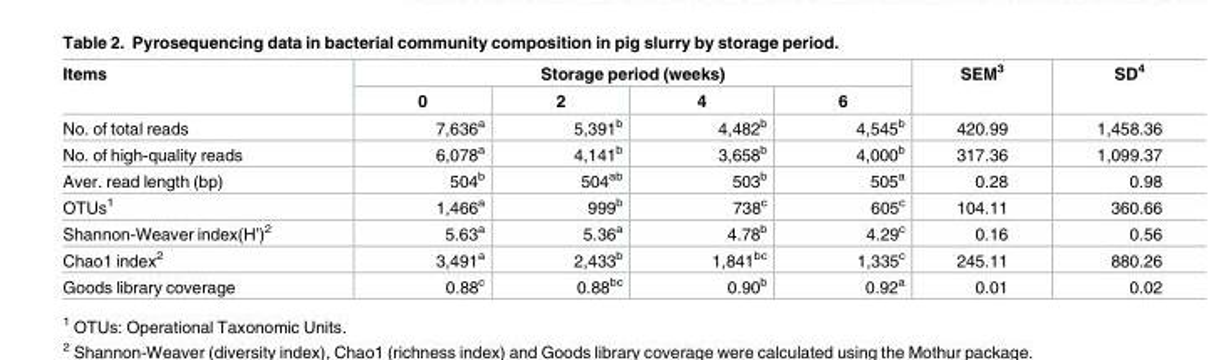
<table><thead><tr><td rowspan="2">Items</td><td colspan="4">Storage period (weeks)</td><td rowspan="2">SEM<sup>3</sup></td><td rowspan="2">SD<sup>4</sup></td></tr><tr><td>0</td><td>2</td><td>4</td><td>6</td></tr></thead><tbody><tr><td>No. of total reads</td><td>7,636<sup>a</sup></td><td>5,391<sup>b</sup></td><td>4,482<sup>b</sup></td><td>4,545<sup>b</sup></td><td>420.99</td><td>1,458.36</td></tr><tr><td>No. of high-quality reads</td><td>6,078<sup>a</sup></td><td>4,141<sup>b</sup></td><td>3,658<sup>b</sup></td><td>4,000<sup>b</sup></td><td>317.36</td><td>1,099.37</td></tr><tr><td>Aver. read length (bp)</td><td>504<sup>b</sup></td><td>504<sup>ab</sup></td><td>503<sup>b</sup></td><td>505<sup>a</sup></td><td>0.28</td><td>0.98</td></tr><tr><td>OTUs<sup>1</sup></td><td>1,466<sup>a</sup></td><td>999<sup>b</sup></td><td>738<sup>c</sup></td><td>605<sup>c</sup></td><td>104.11</td><td>360.66</td></tr><tr><td>Shannon-Weaver index(H’)<sup>2</sup></td><td>5.63<sup>a</sup></td><td>5.36<sup>a</sup></td><td>4.78<sup>b</sup></td><td>4.29<sup>c</sup></td><td>0.16</td><td>0.56</td></tr><tr><td>Chao1 index<sup>2</sup></td><td>3,491<sup>a</sup></td><td>2,433<sup>b</sup></td><td>1,841<sup>bc</sup></td><td>1,335<sup>c</sup></td><td>245.11</td><td>880.26</td></tr><tr><td>Goods library coverage</td><td>0.88<sup>c</sup></td><td>0.88<sup>bc</sup></td><td>0.90<sup>b</sup></td><td>0.92<sup>a</sup></td><td>0.01</td><td>0.02</td></tr></tbody></table>